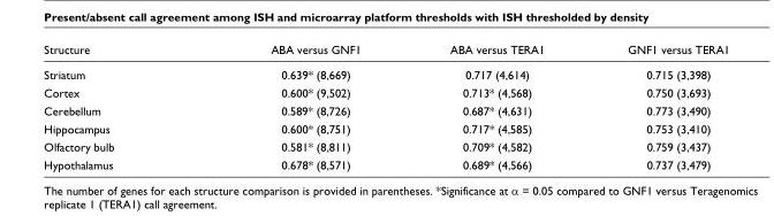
<table><thead><tr><td>Structure</td><td>ABA versus GNF1</td><td>ABA versus TERA1</td><td>GNF1 versus TERA1</td></tr></thead><tbody><tr><td>Striatum</td><td>0.639* (8,669)</td><td>0.717 (4,614)</td><td>0.715 (3,398)</td></tr><tr><td>Cortex</td><td>0.600* (9,502)</td><td>0.713* (4,568)</td><td>0.750 (3,693)</td></tr><tr><td>Cerebellum</td><td>0.589* (8,726)</td><td>0.687* (4,631)</td><td>0.773 (3,490)</td></tr><tr><td>Hippocampus</td><td>0.600* (8,751)</td><td>0.717* (4,585)</td><td>0.753 (3,410)</td></tr><tr><td>Olfactory bulb</td><td>0.581* (8,811)</td><td>0.709* (4,582)</td><td>0.759 (3,437)</td></tr><tr><td>Hypothalamus</td><td>0.678* (8,571)</td><td>0.689* (4,566)</td><td>0.737 (3,479)</td></tr></tbody></table>